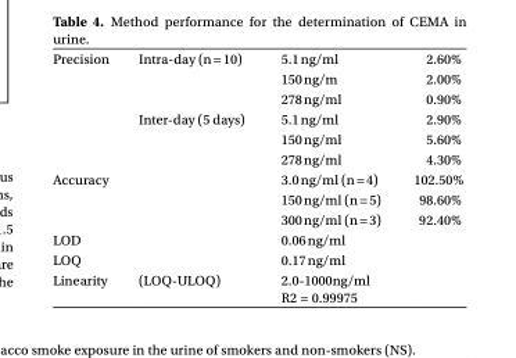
<table><tbody><tr><td rowspan="6">Precision</td><td>Intra-day (n = 10)</td><td>5.1 ng/ml</td><td>2.60%</td></tr><tr><td></td><td>150 ng/m</td><td>2.00%</td></tr><tr><td></td><td>278 ng/ml</td><td>0.90%</td></tr><tr><td>Inter-day (5 days)</td><td>5.1 ng/ml</td><td>2.90%</td></tr><tr><td></td><td>150 ng/ml</td><td>5.60%</td></tr><tr><td></td><td>278 ng/ml</td><td>4.30%</td></tr><tr><td rowspan="3">Accuracy</td><td></td><td>3.0 ng/ml (n = 4)</td><td>102.50%</td></tr><tr><td></td><td>150 ng/ml (n = 5)</td><td>98.60%</td></tr><tr><td></td><td>300 ng/ml (n = 3)</td><td>92.40%</td></tr><tr><td>LOD</td><td></td><td>0.06 ng/ml</td><td></td></tr><tr><td>LOQ</td><td></td><td>0.17 ng/ml</td><td></td></tr><tr><td rowspan="2">Linearity</td><td>(LOQ-ULOQ)</td><td>2.0-1000ng/ml</td><td></td></tr><tr><td></td><td>R2 = 0.99975</td><td></td></tr></tbody></table>